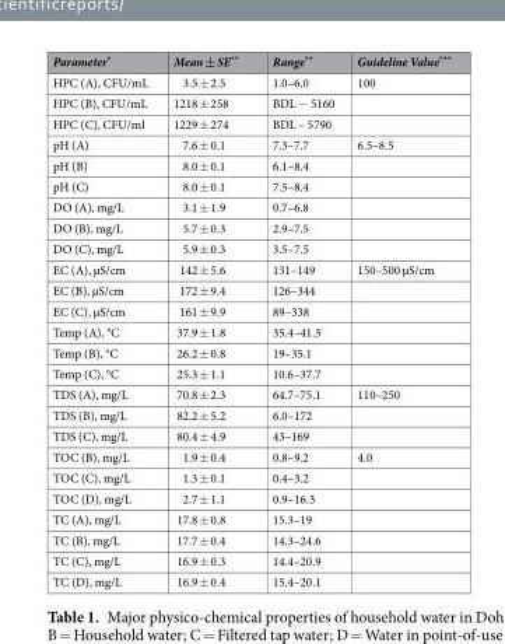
<table><thead><tr><td>Parameter*</td><td>Mean ± SE**</td><td>Range**</td><td>Guideline Value***</td></tr></thead><tbody><tr><td>HPC (A), CFU/mL</td><td>3.5 ± 2.5</td><td>1.0–6.0</td><td>100</td></tr><tr><td>HPC (B), CFU/mL</td><td>1218 ± 258</td><td>BDL − 5160</td><td></td></tr><tr><td>HPC (C), CFU/ml</td><td>1229 ± 274</td><td>BDL – 5790</td><td></td></tr><tr><td>pH (A)</td><td>7.6 ± 0.1</td><td>7.3–7.7</td><td>6.5–8.5</td></tr><tr><td>pH (B)</td><td>8.0 ± 0.1</td><td>6.1–8.4</td><td></td></tr><tr><td>pH (C)</td><td>8.0 ± 0.1</td><td>7.5–8.4</td><td></td></tr><tr><td>DO (A), mg/L</td><td>3.1 ± 1.9</td><td>0.7–6.8</td><td></td></tr><tr><td>DO (B), mg/L</td><td>5.7 ± 0.3</td><td>2.9–7.5</td><td></td></tr><tr><td>DO (C), mg/L</td><td>5.9 ± 0.3</td><td>3.5–7.5</td><td></td></tr><tr><td>EC (A), µS/cm</td><td>142 ± 5.6</td><td>131–149</td><td>150–500 µS/cm</td></tr><tr><td>EC (B), µS/cm</td><td>172 ± 9.4</td><td>126–344</td><td></td></tr><tr><td>EC (C), µS/cm</td><td>161 ± 9.9</td><td>89–338</td><td></td></tr><tr><td>Temp (A), °C</td><td>37.9 ± 1.8</td><td>35.4–41.5</td><td></td></tr><tr><td>Temp (B), °C</td><td>26.2 ± 0.8</td><td>19–35.1</td><td></td></tr><tr><td>Temp (C), °C</td><td>25.3 ± 1.1</td><td>10.6–37.7</td><td></td></tr><tr><td>TDS (A), mg/L</td><td>70.8 ± 2.3</td><td>64.7–75.1</td><td>110–250</td></tr><tr><td>TDS (B), mg/L</td><td>82.2 ± 5.2</td><td>6.0–172</td><td></td></tr><tr><td>TDS (C), mg/L</td><td>80.4 ± 4.9</td><td>43–169</td><td></td></tr><tr><td>TOC (B), mg/L</td><td>1.9 ± 0.4</td><td>0.8–9.2</td><td>4.0</td></tr><tr><td>TOC (C), mg/L</td><td>1.3 ± 0.1</td><td>0.4–3.2</td><td></td></tr><tr><td>TOC (D), mg/L</td><td>2.7 ± 1.1</td><td>0.9–16.3</td><td></td></tr><tr><td>TC (A), mg/L</td><td>17.8 ± 0.8</td><td>15.3–19</td><td></td></tr><tr><td>TC (B), mg/L</td><td>17.7 ± 0.4</td><td>14.3–24.6</td><td></td></tr><tr><td>TC (C), mg/L</td><td>16.9 ± 0.3</td><td>14.4–20.9</td><td></td></tr><tr><td>TC (D), mg/L</td><td>16.9 ± 0.4</td><td>15.4–20.1</td><td></td></tr></tbody></table>